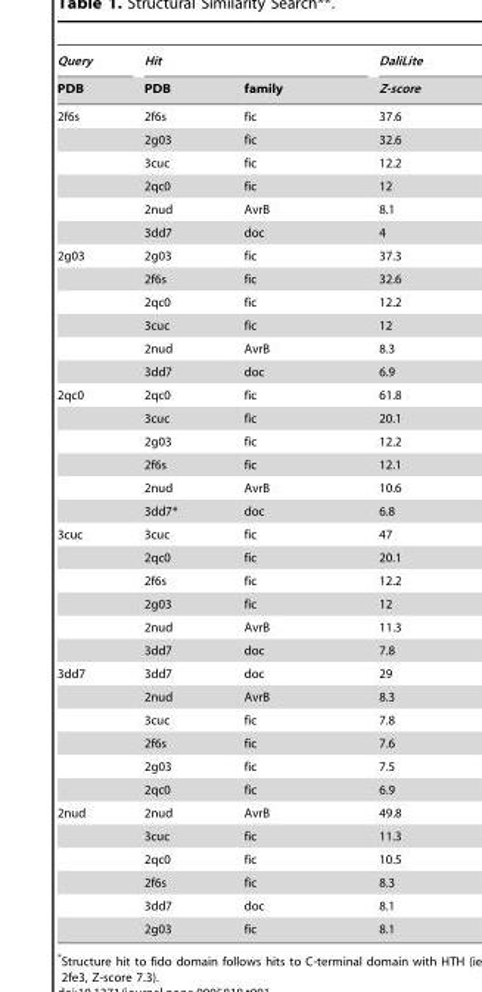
<table><thead><tr><td rowspan="2">Query PDB</td><td colspan="2">Hit</td><td rowspan="2">DaliLite Z-score</td></tr><tr><td>PDB</td><td>family</td></tr></thead><tbody><tr><td rowspan="6">2f6s</td><td>2f6s</td><td>fic</td><td>37.6</td></tr><tr><td>2g03</td><td>fic</td><td>32.6</td></tr><tr><td>3cuc</td><td>fic</td><td>12.2</td></tr><tr><td>2qc0</td><td>fic</td><td>12</td></tr><tr><td>2nud</td><td>AvrB</td><td>8.1</td></tr><tr><td>3dd7</td><td>doc</td><td>4</td></tr><tr><td rowspan="6">2g03</td><td>2g03</td><td>fic</td><td>37.3</td></tr><tr><td>2f6s</td><td>fic</td><td>32.6</td></tr><tr><td>2qc0</td><td>fic</td><td>12.2</td></tr><tr><td>3cuc</td><td>fic</td><td>12</td></tr><tr><td>2nud</td><td>AvrB</td><td>8.3</td></tr><tr><td>3dd7</td><td>doc</td><td>6.9</td></tr><tr><td rowspan="6">2qc0</td><td>2qc0</td><td>fic</td><td>61.8</td></tr><tr><td>3cuc</td><td>fic</td><td>20.1</td></tr><tr><td>2g03</td><td>fic</td><td>12.2</td></tr><tr><td>2f6s</td><td>fic</td><td>12.1</td></tr><tr><td>2nud</td><td>AvrB</td><td>10.6</td></tr><tr><td>3dd7*</td><td>doc</td><td>6.8</td></tr><tr><td rowspan="6">3cuc</td><td>3cuc</td><td>fic</td><td>47</td></tr><tr><td>2qc0</td><td>fic</td><td>20.1</td></tr><tr><td>2f6s</td><td>fic</td><td>12.2</td></tr><tr><td>2g03</td><td>fic</td><td>12</td></tr><tr><td>2nud</td><td>AvrB</td><td>11.3</td></tr><tr><td>3dd7</td><td>doc</td><td>7.8</td></tr><tr><td rowspan="6">3dd7</td><td>3dd7</td><td>doc</td><td>29</td></tr><tr><td>2nud</td><td>AvrB</td><td>8.3</td></tr><tr><td>3cuc</td><td>fic</td><td>7.8</td></tr><tr><td>2f6s</td><td>fic</td><td>7.6</td></tr><tr><td>2g03</td><td>fic</td><td>7.5</td></tr><tr><td>2qc0</td><td>fic</td><td>6.9</td></tr><tr><td rowspan="6">2nud</td><td>2nud</td><td>AvrB</td><td>49.8</td></tr><tr><td>3cuc</td><td>fic</td><td>11.3</td></tr><tr><td>2qc0</td><td>fic</td><td>10.5</td></tr><tr><td>2f6s</td><td>fic</td><td>8.3</td></tr><tr><td>3dd7</td><td>doc</td><td>8.1</td></tr><tr><td>2g03</td><td>fic</td><td>8.1</td></tr></tbody></table>